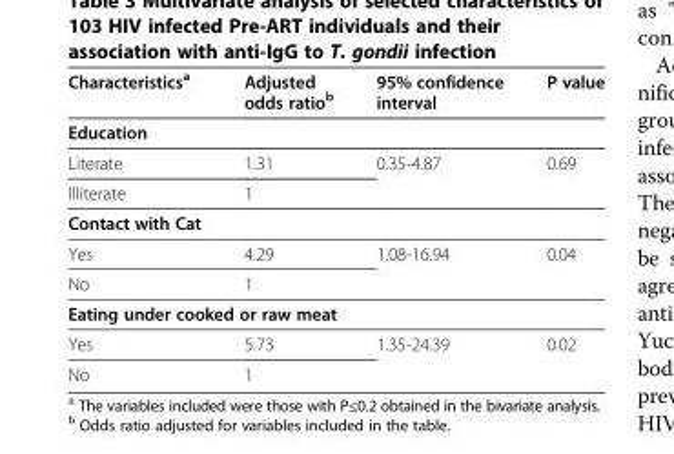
<table><thead><tr><td>Characteristics<sup>a</sup></td><td>Adjusted odds ratio<sup>b</sup></td><td>95% confidence interval</td><td>P value</td></tr></thead><tbody><tr><td colspan="4">Education</td></tr><tr><td>Literate</td><td>1.31</td><td>0.35-4.87</td><td>0.69</td></tr><tr><td>Illiterate</td><td>1</td><td></td><td></td></tr><tr><td colspan="4">Contact with Cat</td></tr><tr><td>Yes</td><td>4.29</td><td>1.08-16.94</td><td>0.04</td></tr><tr><td>No</td><td>1</td><td></td><td></td></tr><tr><td colspan="4">Eating under cooked or raw meat</td></tr><tr><td>Yes</td><td>5.73</td><td>1.35-24.39</td><td>0.02</td></tr><tr><td>No</td><td>1</td><td></td><td></td></tr></tbody></table>